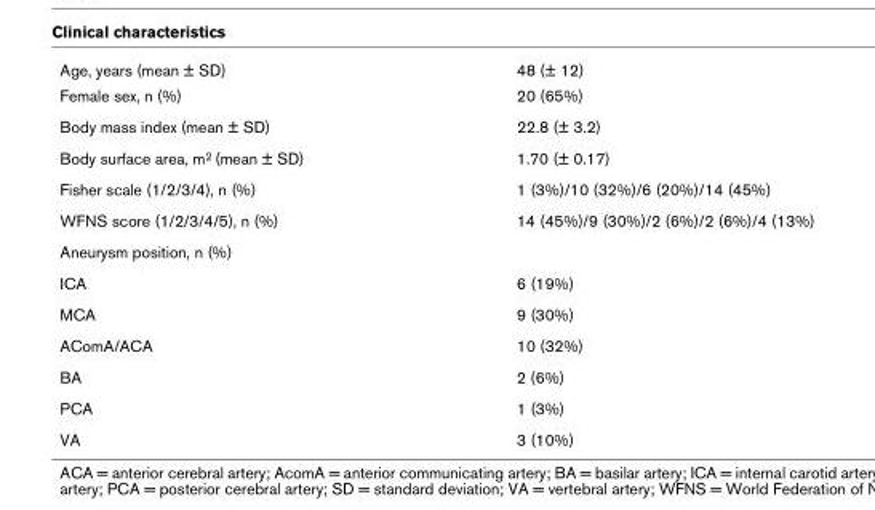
<table><tbody><tr><td>Age, years (mean ± SD)</td><td>48 (± 12)</td></tr><tr><td>Female sex, n (%)</td><td>20 (65%)</td></tr><tr><td>Body mass index (mean ± SD)</td><td>22.8 (± 3.2)</td></tr><tr><td>Body surface area, m<sup>2</sup> (mean ± SD)</td><td>1.70 (± 0.17)</td></tr><tr><td>Fisher scale (1/2/3/4), n (%)</td><td>1 (3%)/10 (32%)/6 (20%)/14 (45%)</td></tr><tr><td>WFNS score (1/2/3/4/5), n (%)</td><td>14 (45%)/9 (30%)/2 (6%)/2 (6%)/4 (13%)</td></tr><tr><td colspan="2">Aneurysm position, n (%)</td></tr><tr><td>ICA</td><td>6 (19%)</td></tr><tr><td>MCA</td><td>9 (30%)</td></tr><tr><td>AComA/ACA</td><td>10 (32%)</td></tr><tr><td>BA</td><td>2 (6%)</td></tr><tr><td>PCA</td><td>1 (3%)</td></tr><tr><td>VA</td><td>3 (10%)</td></tr></tbody></table>